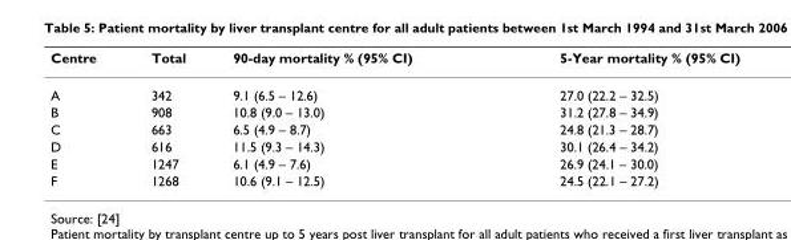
<table><thead><tr><td>Centre</td><td>Total</td><td>90-day mortality % (95% CI)</td><td>5-Year mortality % (95% CI)</td></tr></thead><tbody><tr><td>A</td><td>342</td><td>9.1 (6.5 – 12.6)</td><td>27.0 (22.2 – 32.5)</td></tr><tr><td>B</td><td>908</td><td>10.8 (9.0 – 13.0)</td><td>31.2 (27.8 – 34.9)</td></tr><tr><td>C</td><td>663</td><td>6.5 (4.9 – 8.7)</td><td>24.8 (21.3 – 28.7)</td></tr><tr><td>D</td><td>616</td><td>11.5 (9.3 – 14.3)</td><td>30.1 (26.4 – 34.2)</td></tr><tr><td>E</td><td>1247</td><td>6.1 (4.9 – 7.6)</td><td>26.9 (24.1 – 30.0)</td></tr><tr><td>F</td><td>1268</td><td>10.6 (9.1 – 12.5)</td><td>24.5 (22.1 – 27.2)</td></tr></tbody></table>